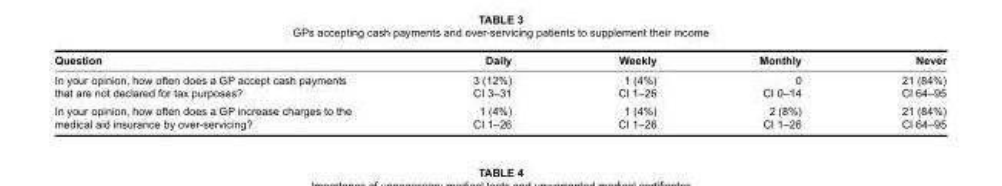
<table><thead><tr><td>Question</td><td>Daily</td><td>Weekly</td><td>Monthly</td><td>Never</td></tr></thead><tbody><tr><td>In your opinion, how often does a GP accept cash payments that are not declared for tax purposes?</td><td>3 (12%) CI 3–31</td><td>1 (4%) CI 1–26</td><td>0 CI 0–14</td><td>21 (84%) CI 64–95</td></tr><tr><td>In your opinion, how often does a GP increase charges to the medical aid insurance by over-servicing?</td><td>1 (4%) CI 1–26</td><td>1 (4%) CI 1–26</td><td>2 (8%) CI 1–26</td><td>21 (84%) CI 64–95</td></tr></tbody></table>